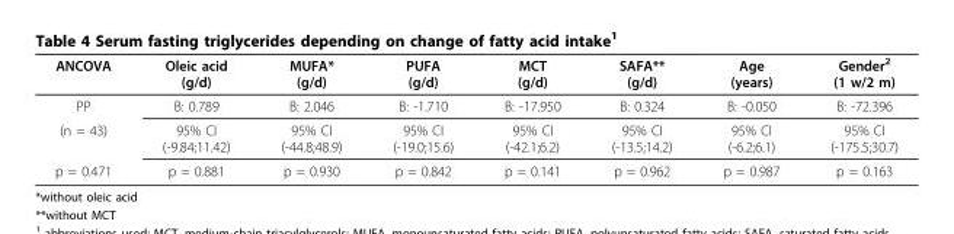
<table><thead><tr><td>ANCOVA</td><td>Oleic acid (g/d)</td><td>MUFA* (g/d)</td><td>PUFA (g/d)</td><td>MCT (g/d)</td><td>SAFA** (g/d)</td><td>Age (years)</td><td>Gender<sup>2</sup> (1 w/2 m)</td></tr></thead><tbody><tr><td>PP</td><td>B: 0.789</td><td>B: 2.046</td><td>B: -1.710</td><td>B: -17.950</td><td>B: 0.324</td><td>B: -0.050</td><td>B: -72.396</td></tr><tr><td>(n = 43)</td><td>95% CI (-9.84;11.42)</td><td>95% CI (-44.8;48.9)</td><td>95% CI (-19.0;15.6)</td><td>95% CI (-42.1;6.2)</td><td>95% CI (-13.5;14.2)</td><td>95% CI (-6.2;6.1)</td><td>95% CI (-175.5;30.7)</td></tr><tr><td>p = 0.471</td><td>p = 0.881</td><td>p = 0.930</td><td>p = 0.842</td><td>p = 0.141</td><td>p = 0.962</td><td>p = 0.987</td><td>p = 0.163</td></tr></tbody></table>